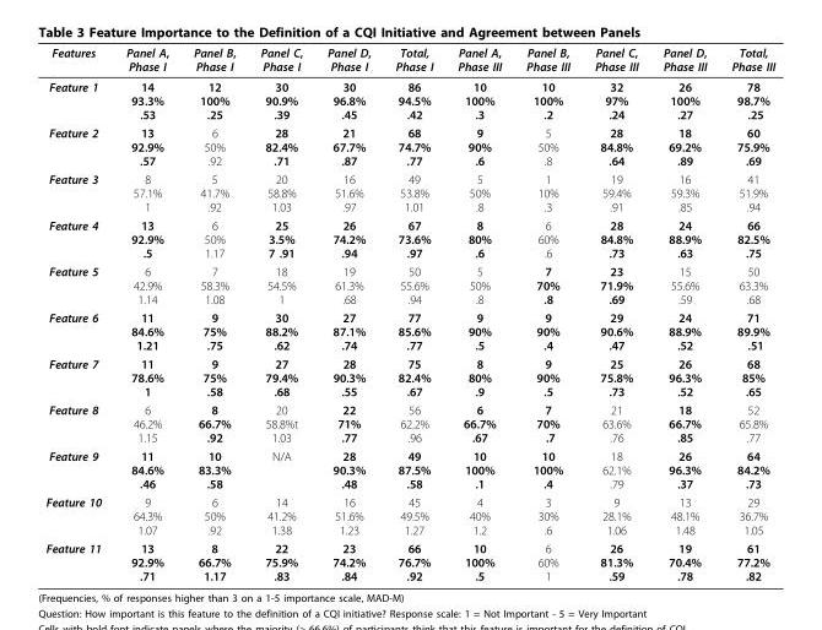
<table><thead><tr><td>Features</td><td>Panel A, Phase I</td><td>Panel B, Phase I</td><td>Panel C, Phase I</td><td>Panel D, Phase I</td><td>Total, Phase I</td><td>Panel A, Phase III</td><td>Panel B, Phase III</td><td>Panel C, Phase III</td><td>Panel D, Phase III</td><td>Total, Phase III</td></tr></thead><tbody><tr><td>Feature 1</td><td>14 93.3% .53</td><td>12 100% .25</td><td>30 90.9% .39</td><td>30 96.8% .45</td><td>86 94.5% .42</td><td>10 100% .3</td><td>10 100% .2</td><td>32 97% .24</td><td>26 100% .27</td><td>78 98.7% .25</td></tr><tr><td>Feature 2</td><td>13 92.9% .57</td><td>6 50% .92</td><td>28 82.4% .71</td><td>21 67.7% .87</td><td>68 74.7% .77</td><td>9 90% .6</td><td>5 50% .8</td><td>28 84.8% .64</td><td>18 69.2% .89</td><td>60 75.9% .69</td></tr><tr><td>Feature 3</td><td>8 57.1% 1</td><td>5 41.7% .92</td><td>20 58.8% 1.03</td><td>16 51.6% .97</td><td>49 53.8% 1.01</td><td>5 50% .8</td><td>1 10% .3</td><td>19 59.4% .91</td><td>16 59.3% .85</td><td>41 51.9% .94</td></tr><tr><td>Feature 4</td><td>13 92.9% .5</td><td>6 50% 1.17</td><td>25 3.5% 7 .91</td><td>26 74.2% .94</td><td>67 73.6% .97</td><td>8 80% .6</td><td>6 60% .6</td><td>28 84.8% .73</td><td>24 88.9% .63</td><td>66 82.5% .75</td></tr><tr><td>Feature 5</td><td>6 42.9% 1.14</td><td>7 58.3% 1.08</td><td>18 54.5% 1</td><td>19 61.3% .68</td><td>50 55.6% .94</td><td>5 50% .8</td><td>7 70% .8</td><td>23 71.9% .69</td><td>15 55.6% .59</td><td>50 63.3% .68</td></tr><tr><td>Feature 6</td><td>11 84.6% 1.21</td><td>9 75% .75</td><td>30 88.2% .62</td><td>27 87.1% .74</td><td>77 85.6% .77</td><td>9 90% .5</td><td>9 90% .4</td><td>29 90.6% .47</td><td>24 88.9% .52</td><td>71 89.9% .51</td></tr><tr><td>Feature 7</td><td>11 78.6% 1</td><td>9 75% .58</td><td>27 79.4% .68</td><td>28 90.3% .55</td><td>75 82.4% .67</td><td>8 80% .9</td><td>9 90% .5</td><td>25 75.8% .73</td><td>26 96.3% .52</td><td>68 85% .65</td></tr><tr><td>Feature 8</td><td>6 46.2% 1.15</td><td>8 66.7% .92</td><td>20 58.8%t 1.03</td><td>22 71% .77</td><td>56 62.2% .96</td><td>6 66.7% .67</td><td>7 70% .7</td><td>21 63.6% .76</td><td>18 66.7% .85</td><td>52 65.8% .77</td></tr><tr><td>Feature 9</td><td>11 84.6% .46</td><td>10 83.3% .58</td><td>N/A</td><td>28 90.3% .48</td><td>49 87.5% .58</td><td>10 100% .1</td><td>10 100% .4</td><td>18 62.1% .79</td><td>26 96.3% .37</td><td>64 84.2% .73</td></tr><tr><td>Feature 10</td><td>9 64.3% 1.07</td><td>6 50% .92</td><td>14 41.2% 1.38</td><td>16 51.6% 1.23</td><td>45 49.5% 1.27</td><td>4 40% 1.2</td><td>3 30% .6</td><td>9 28.1% 1.06</td><td>13 48.1% 1.48</td><td>29 36.7% 1.05</td></tr><tr><td>Feature 11</td><td>13 92.9% .71</td><td>8 66.7% 1.17</td><td>22 75.9% .83</td><td>23 74.2% .84</td><td>66 76.7% .92</td><td>10 100% .5</td><td>6 60% 1</td><td>26 81.3% .59</td><td>19 70.4% .78</td><td>61 77.2% .82</td></tr></tbody></table>